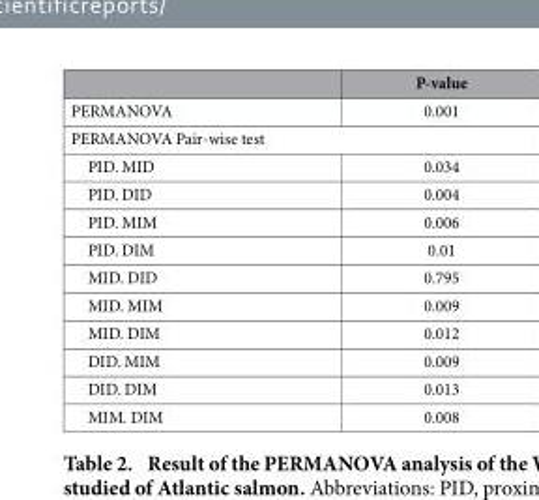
<table><thead><tr><td></td><td>P-value</td></tr></thead><tbody><tr><td>PERMANOVA</td><td>0.001</td></tr><tr><td colspan="2">PERMANOVA Pair-wise test</td></tr><tr><td>PID. MID</td><td>0.034</td></tr><tr><td>PID. DID</td><td>0.004</td></tr><tr><td>PID. MIM</td><td>0.006</td></tr><tr><td>PID. DIM</td><td>0.01</td></tr><tr><td>MID. DID</td><td>0.795</td></tr><tr><td>MID. MIM</td><td>0.009</td></tr><tr><td>MID. DIM</td><td>0.012</td></tr><tr><td>DID. MIM</td><td>0.009</td></tr><tr><td>DID. DIM</td><td>0.013</td></tr><tr><td>MIM. DIM</td><td>0.008</td></tr></tbody></table>